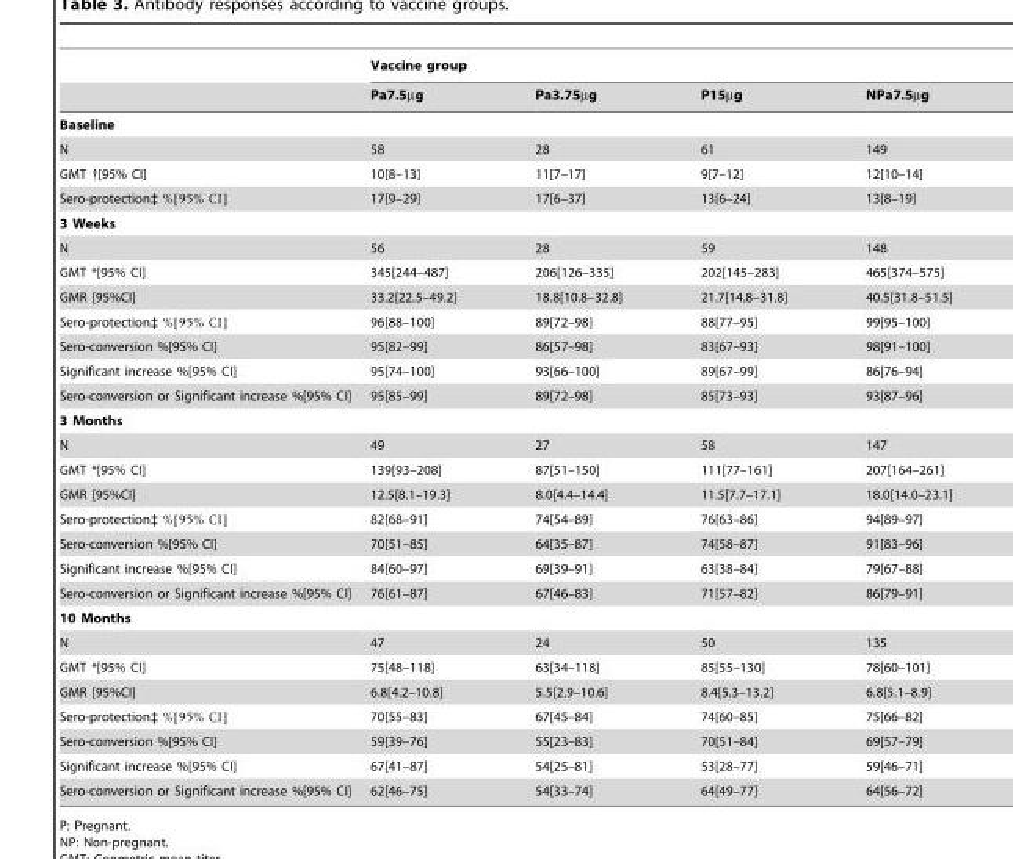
<table><thead><tr><td rowspan="2"></td><td colspan="4">Vaccine group</td></tr><tr><td>Pa7.5µg</td><td>Pa3.75µg</td><td>P15µg</td><td>NPa7.5µg</td></tr></thead><tbody><tr><td colspan="5">Baseline</td></tr><tr><td>N</td><td>58</td><td>28</td><td>61</td><td>149</td></tr><tr><td>GMT †[95% CI]</td><td>10[8–13]</td><td>11[7–17]</td><td>9[7–12]</td><td>12[10–14]</td></tr><tr><td>Sero-protection‡ %[95% CI]</td><td>17[9–29]</td><td>17[6–37]</td><td>13[6–24]</td><td>13[8–19]</td></tr><tr><td colspan="5">3 Weeks</td></tr><tr><td>N</td><td>56</td><td>28</td><td>59</td><td>148</td></tr><tr><td>GMT *[95% CI]</td><td>345[244–487]</td><td>206[126–335]</td><td>202[145–283]</td><td>465[374–575]</td></tr><tr><td>GMR [95%CI]</td><td>33.2[22.5–49.2]</td><td>18.8[10.8–32.8]</td><td>21.7[14.8–31.8]</td><td>40.5[31.8–51.5]</td></tr><tr><td>Sero-protection‡ %[95% CI]</td><td>96[88–100]</td><td>89[72–98]</td><td>88[77–95]</td><td>99[95–100]</td></tr><tr><td>Sero-conversion %[95% CI]</td><td>95[82–99]</td><td>86[57–98]</td><td>83[67–93]</td><td>98[91–100]</td></tr><tr><td>Significant increase %[95% CI]</td><td>95[74–100]</td><td>93[66–100]</td><td>89[67–99]</td><td>86[76–94]</td></tr><tr><td>Sero-conversion or Significant increase %[95% CI]</td><td>95[85–99]</td><td>89[72–98]</td><td>85[73–93]</td><td>93[87–96]</td></tr><tr><td colspan="5">3 Months</td></tr><tr><td>N</td><td>49</td><td>27</td><td>58</td><td>147</td></tr><tr><td>GMT *[95% CI]</td><td>139[93–208]</td><td>87[51–150]</td><td>111[77–161]</td><td>207[164–261]</td></tr><tr><td>GMR [95%CI]</td><td>12.5[8.1–19.3]</td><td>8.0[4.4–14.4]</td><td>11.5[7.7–17.1]</td><td>18.0[14.0–23.1]</td></tr><tr><td>Sero-protection‡ %[95% CI]</td><td>82[68–91]</td><td>74[54–89]</td><td>76[63–86]</td><td>94[89–97]</td></tr><tr><td>Sero-conversion %[95% CI]</td><td>70[51–85]</td><td>64[35–87]</td><td>74[58–87]</td><td>91[83–96]</td></tr><tr><td>Significant increase %[95% CI]</td><td>84[60–97]</td><td>69[39–91]</td><td>63[38–84]</td><td>79[67–88]</td></tr><tr><td>Sero-conversion or Significant increase %[95% CI]</td><td>76[61–87]</td><td>67[46–83]</td><td>71[57–82]</td><td>86[79–91]</td></tr><tr><td colspan="5">10 Months</td></tr><tr><td>N</td><td>47</td><td>24</td><td>50</td><td>135</td></tr><tr><td>GMT *[95% CI]</td><td>75[48–118]</td><td>63[34–118]</td><td>85[55–130]</td><td>78[60–101]</td></tr><tr><td>GMR [95%CI]</td><td>6.8[4.2–10.8]</td><td>5.5[2.9–10.6]</td><td>8.4[5.3–13.2]</td><td>6.8[5.1–8.9]</td></tr><tr><td>Sero-protection‡ %[95% CI]</td><td>70[55–83]</td><td>67[45–84]</td><td>74[60–85]</td><td>75[66–82]</td></tr><tr><td>Sero-conversion %[95% CI]</td><td>59[39–76]</td><td>55[23–83]</td><td>70[51–84]</td><td>69[57–79]</td></tr><tr><td>Significant increase %[95% CI]</td><td>67[41–87]</td><td>54[25–81]</td><td>53[28–77]</td><td>59[46–71]</td></tr><tr><td>Sero-conversion or Significant increase %[95% CI]</td><td>62[46–75]</td><td>54[33–74]</td><td>64[49–77]</td><td>64[56–72]</td></tr></tbody></table>